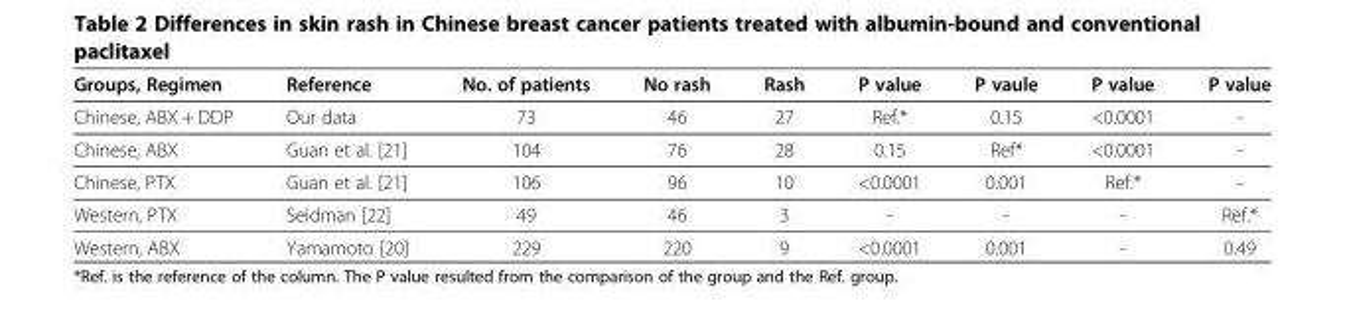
<table><thead><tr><td>Groups, Regimen</td><td>Reference</td><td>No. of patients</td><td>No rash</td><td>Rash</td><td>P value</td><td>P vaule</td><td>P value</td><td>P value</td></tr></thead><tbody><tr><td>Chinese, ABX + DDP</td><td>Our data</td><td>73</td><td>46</td><td>27</td><td>Ref.*</td><td>0.15</td><td>&lt;0.0001</td><td>-</td></tr><tr><td>Chinese, ABX</td><td>Guan et al. [21]</td><td>104</td><td>76</td><td>28</td><td>0.15</td><td>Ref*</td><td>&lt;0.0001</td><td>-</td></tr><tr><td>Chinese, PTX</td><td>Guan et al. [21]</td><td>106</td><td>96</td><td>10</td><td>&lt;0.0001</td><td>0.001</td><td>Ref.*</td><td>-</td></tr><tr><td>Western, PTX</td><td>Seidman [22]</td><td>49</td><td>46</td><td>3</td><td>-</td><td>-</td><td>-</td><td>Ref.*</td></tr><tr><td>Western, ABX</td><td>Yamamoto [20]</td><td>229</td><td>220</td><td>9</td><td>&lt;0.0001</td><td>0.001</td><td>-</td><td>0.49</td></tr></tbody></table>